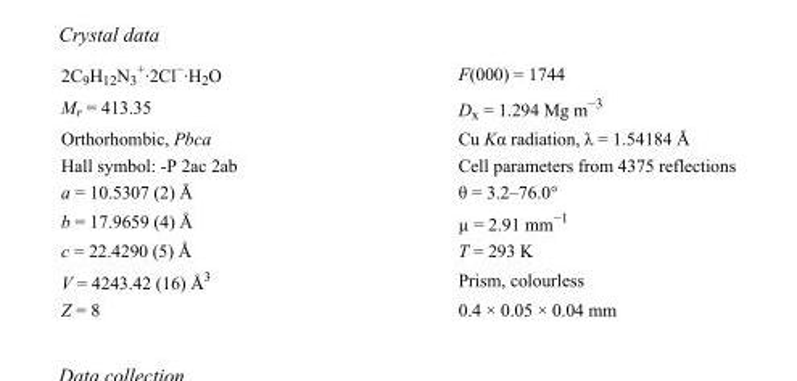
<table><tbody><tr><td>2C<sub>9</sub>H<sub>12</sub>N<sub>3</sub> <sup>+</sup>·2Cl<sup>−</sup>·H<sub>2</sub>O</td><td>F(000) = 1744</td></tr><tr><td>M<sub>r</sub> = 413.35</td><td>D<sub>x</sub> = 1.294 Mg m<sup>−3</sup></td></tr><tr><td>Orthorhombic, Pbca</td><td>Cu Kα radiation, λ = 1.54184 Å</td></tr><tr><td>Hall symbol: -P 2ac 2ab</td><td>Cell parameters from 4375 reflections</td></tr><tr><td>a = 10.5307 (2) Å</td><td>θ = 3.2–76.0°</td></tr><tr><td>b = 17.9659 (4) Å</td><td>µ = 2.91 mm<sup>−1</sup></td></tr><tr><td>c = 22.4290 (5) Å</td><td>T = 293 K</td></tr><tr><td>V = 4243.42 (16) Å<sup>3</sup></td><td>Prism, colourless</td></tr><tr><td>Z = 8</td><td>0.4 × 0.05 × 0.04 mm</td></tr></tbody></table>